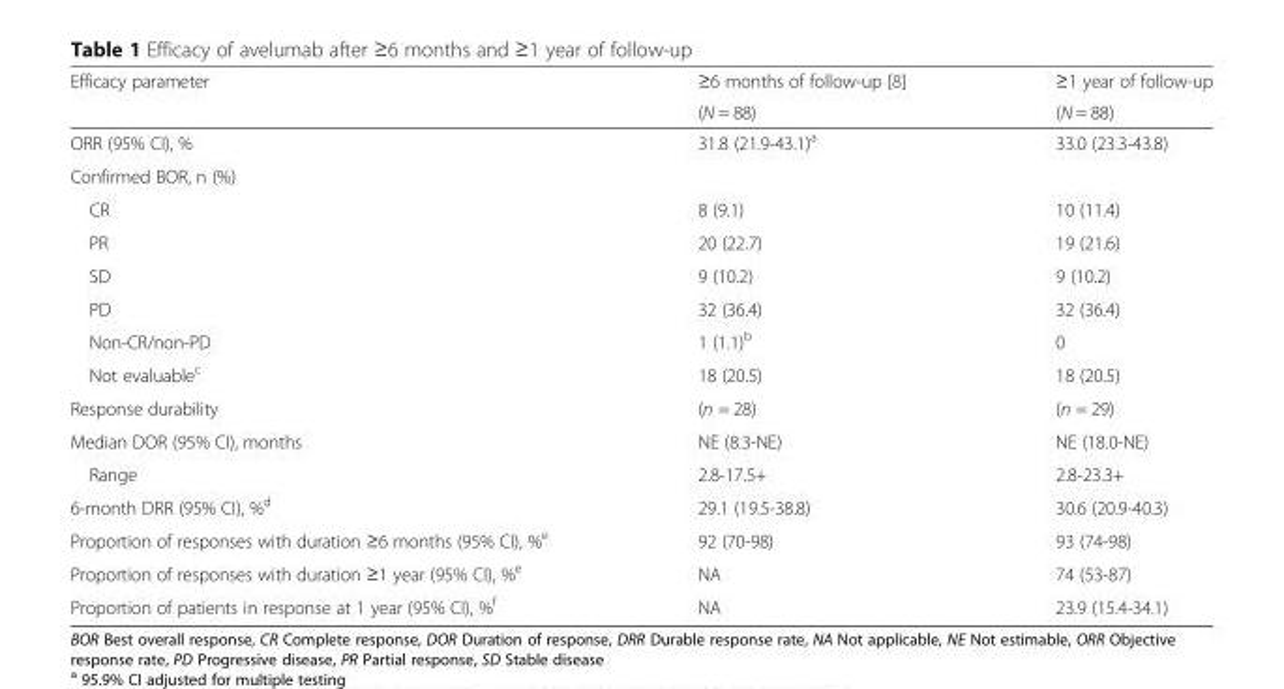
<table><thead><tr><td rowspan="2">Efficacy parameter</td><td rowspan="2">≥6 months of follow-up [8] (N = 88)</td><td rowspan="2">≥1 year of follow-up (N = 88)</td></tr><tr></tr></thead><tbody><tr><td>ORR (95% CI), %</td><td>31.8 (21.9-43.1)<sup>a</sup></td><td>33.0 (23.3-43.8)</td></tr><tr><td colspan="3">Confirmed BOR, n (%)</td></tr><tr><td>CR</td><td>8 (9.1)</td><td>10 (11.4)</td></tr><tr><td>PR</td><td>20 (22.7)</td><td>19 (21.6)</td></tr><tr><td>SD</td><td>9 (10.2)</td><td>9 (10.2)</td></tr><tr><td>PD</td><td>32 (36.4)</td><td>32 (36.4)</td></tr><tr><td>Non-CR/non-PD</td><td>1 (1.1)<sup>b</sup></td><td>0</td></tr><tr><td>Not evaluable<sup>c</sup></td><td>18 (20.5)</td><td>18 (20.5)</td></tr><tr><td>Response durability</td><td>(n = 28)</td><td>(n = 29)</td></tr><tr><td>Median DOR (95% CI), months</td><td>NE (8.3-NE)</td><td>NE (18.0-NE)</td></tr><tr><td>Range</td><td>2.8-17.5+</td><td>2.8-23.3+</td></tr><tr><td>6-month DRR (95% CI), %<sup>d</sup></td><td>29.1 (19.5-38.8)</td><td>30.6 (20.9-40.3)</td></tr><tr><td>Proportion of responses with duration ≥6 months (95% CI), %<sup>e</sup></td><td>92 (70-98)</td><td>93 (74-98)</td></tr><tr><td>Proportion of responses with duration ≥1 year (95% CI), %<sup>e</sup></td><td>NA</td><td>74 (53-87)</td></tr><tr><td>Proportion of patients in response at 1 year (95% CI), %<sup>f</sup></td><td>NA</td><td>23.9 (15.4-34.1)</td></tr></tbody></table>